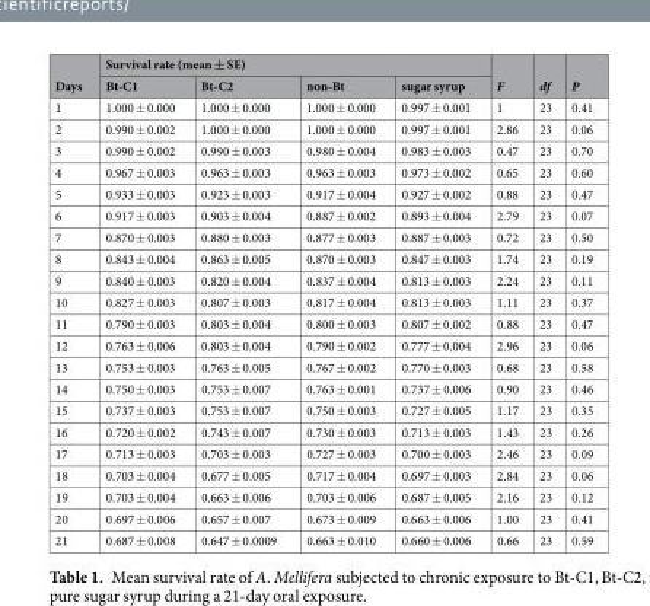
<table><thead><tr><td rowspan="2">Days</td><td colspan="4">Survival rate (mean ± SE)</td><td rowspan="2">F</td><td rowspan="2">df</td><td rowspan="2">P</td></tr><tr><td>Bt-C1</td><td>Bt-C2</td><td>non-Bt</td><td>sugar syrup</td></tr></thead><tbody><tr><td>1</td><td>1.000 ± 0.000</td><td>1.000 ± 0.000</td><td>1.000 ± 0.000</td><td>0.997 ± 0.001</td><td>1</td><td>23</td><td>0.41</td></tr><tr><td>2</td><td>0.990 ± 0.002</td><td>1.000 ± 0.000</td><td>1.000 ± 0.000</td><td>0.997 ± 0.001</td><td>2.86</td><td>23</td><td>0.06</td></tr><tr><td>3</td><td>0.990 ± 0.002</td><td>0.990 ± 0.003</td><td>0.980 ± 0.004</td><td>0.983 ± 0.003</td><td>0.47</td><td>23</td><td>0.70</td></tr><tr><td>4</td><td>0.967 ± 0.003</td><td>0.963 ± 0.003</td><td>0.963 ± 0.003</td><td>0.973 ± 0.002</td><td>0.65</td><td>23</td><td>0.60</td></tr><tr><td>5</td><td>0.933 ± 0.003</td><td>0.923 ± 0.003</td><td>0.917 ± 0.004</td><td>0.927 ± 0.002</td><td>0.88</td><td>23</td><td>0.47</td></tr><tr><td>6</td><td>0.917 ± 0.003</td><td>0.903 ± 0.004</td><td>0.887 ± 0.002</td><td>0.893 ± 0.004</td><td>2.79</td><td>23</td><td>0.07</td></tr><tr><td>7</td><td>0.870 ± 0.003</td><td>0.880 ± 0.003</td><td>0.877 ± 0.003</td><td>0.887 ± 0.003</td><td>0.72</td><td>23</td><td>0.50</td></tr><tr><td>8</td><td>0.843 ± 0.004</td><td>0.863 ± 0.005</td><td>0.870 ± 0.003</td><td>0.847 ± 0.003</td><td>1.74</td><td>23</td><td>0.19</td></tr><tr><td>9</td><td>0.840 ± 0.003</td><td>0.820 ± 0.004</td><td>0.837 ± 0.004</td><td>0.813 ± 0.003</td><td>2.24</td><td>23</td><td>0.11</td></tr><tr><td>10</td><td>0.827 ± 0.003</td><td>0.807 ± 0.003</td><td>0.817 ± 0.004</td><td>0.813 ± 0.003</td><td>1.11</td><td>23</td><td>0.37</td></tr><tr><td>11</td><td>0.790 ± 0.003</td><td>0.803 ± 0.004</td><td>0.800 ± 0.003</td><td>0.807 ± 0.002</td><td>0.88</td><td>23</td><td>0.47</td></tr><tr><td>12</td><td>0.763 ± 0.006</td><td>0.803 ± 0.004</td><td>0.790 ± 0.002</td><td>0.777 ± 0.004</td><td>2.96</td><td>23</td><td>0.06</td></tr><tr><td>13</td><td>0.753 ± 0.003</td><td>0.763 ± 0.005</td><td>0.767 ± 0.002</td><td>0.770 ± 0.003</td><td>0.68</td><td>23</td><td>0.58</td></tr><tr><td>14</td><td>0.750 ± 0.003</td><td>0.753 ± 0.007</td><td>0.763 ± 0.001</td><td>0.737 ± 0.006</td><td>0.90</td><td>23</td><td>0.46</td></tr><tr><td>15</td><td>0.737 ± 0.003</td><td>0.753 ± 0.007</td><td>0.750 ± 0.003</td><td>0.727 ± 0.005</td><td>1.17</td><td>23</td><td>0.35</td></tr><tr><td>16</td><td>0.720 ± 0.002</td><td>0.743 ± 0.007</td><td>0.730 ± 0.003</td><td>0.713 ± 0.003</td><td>1.43</td><td>23</td><td>0.26</td></tr><tr><td>17</td><td>0.713 ± 0.003</td><td>0.703 ± 0.003</td><td>0.727 ± 0.003</td><td>0.700 ± 0.003</td><td>2.46</td><td>23</td><td>0.09</td></tr><tr><td>18</td><td>0.703 ± 0.004</td><td>0.677 ± 0.005</td><td>0.717 ± 0.004</td><td>0.697 ± 0.003</td><td>2.84</td><td>23</td><td>0.06</td></tr><tr><td>19</td><td>0.703 ± 0.004</td><td>0.663 ± 0.006</td><td>0.703 ± 0.006</td><td>0.687 ± 0.005</td><td>2.16</td><td>23</td><td>0.12</td></tr><tr><td>20</td><td>0.697 ± 0.006</td><td>0.657 ± 0.007</td><td>0.673 ± 0.009</td><td>0.663 ± 0.006</td><td>1.00</td><td>23</td><td>0.41</td></tr><tr><td>21</td><td>0.687 ± 0.008</td><td>0.647 ± 0.0009</td><td>0.663 ± 0.010</td><td>0.660 ± 0.006</td><td>0.66</td><td>23</td><td>0.59</td></tr></tbody></table>